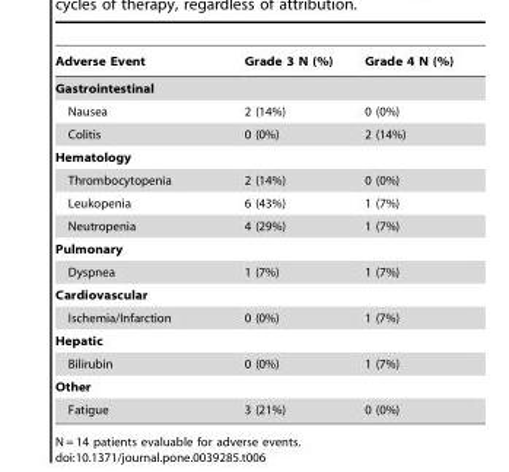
<table><thead><tr><td>Adverse Event</td><td>Grade 3 N (%)</td><td>Grade 4 N (%)</td></tr></thead><tbody><tr><td colspan="3">Gastrointestinal</td></tr><tr><td>Nausea</td><td>2 (14%)</td><td>0 (0%)</td></tr><tr><td>Colitis</td><td>0 (0%)</td><td>2 (14%)</td></tr><tr><td colspan="3">Hematology</td></tr><tr><td>Thrombocytopenia</td><td>2 (14%)</td><td>0 (0%)</td></tr><tr><td>Leukopenia</td><td>6 (43%)</td><td>1 (7%)</td></tr><tr><td>Neutropenia</td><td>4 (29%)</td><td>1 (7%)</td></tr><tr><td colspan="3">Pulmonary</td></tr><tr><td>Dyspnea</td><td>1 (7%)</td><td>1 (7%)</td></tr><tr><td colspan="3">Cardiovascular</td></tr><tr><td>Ischemia/Infarction</td><td>0 (0%)</td><td>1 (7%)</td></tr><tr><td colspan="3">Hepatic</td></tr><tr><td>Bilirubin</td><td>0 (0%)</td><td>1 (7%)</td></tr><tr><td colspan="3">Other</td></tr><tr><td>Fatigue</td><td>3 (21%)</td><td>0 (0%)</td></tr></tbody></table>